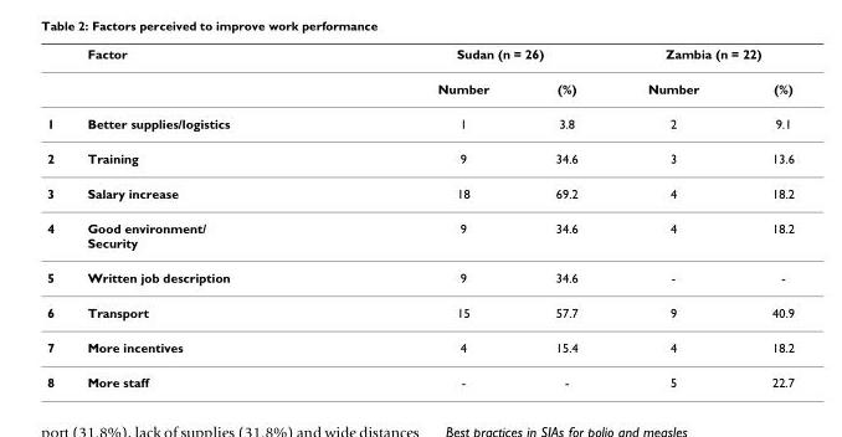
<table><thead><tr><td rowspan="2"></td><td rowspan="2">Factor</td><td colspan="2">Sudan (n = 26)</td><td colspan="2">Zambia (n = 22)</td></tr><tr><td>Number</td><td>(%)</td><td>Number</td><td>(%)</td></tr></thead><tbody><tr><td>1</td><td>Better supplies/logistics</td><td>1</td><td>3.8</td><td>2</td><td>9.1</td></tr><tr><td>2</td><td>Training</td><td>9</td><td>34.6</td><td>3</td><td>13.6</td></tr><tr><td>3</td><td>Salary increase</td><td>18</td><td>69.2</td><td>4</td><td>18.2</td></tr><tr><td>4</td><td>Good environment/ Security</td><td>9</td><td>34.6</td><td>4</td><td>18.2</td></tr><tr><td>5</td><td>Written job description</td><td>9</td><td>34.6</td><td>-</td><td>-</td></tr><tr><td>6</td><td>Transport</td><td>15</td><td>57.7</td><td>9</td><td>40.9</td></tr><tr><td>7</td><td>More incentives</td><td>4</td><td>15.4</td><td>4</td><td>18.2</td></tr><tr><td>8</td><td>More staff</td><td>-</td><td>-</td><td>5</td><td>22.7</td></tr></tbody></table>